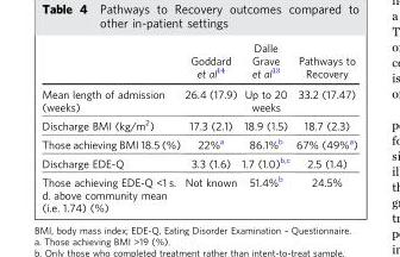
<table><thead><tr><td></td><td>Goddard et al<sup>14</sup></td><td>Dalle Grave et al<sup>13</sup></td><td>Pathways to Recovery</td></tr></thead><tbody><tr><td>Mean length of admission (weeks)</td><td>26.4 (17.9)</td><td>Up to 20 weeks</td><td>33.2 (17.47)</td></tr><tr><td>Discharge BMI (kg/m<sup>2</sup>)</td><td>17.3 (2.1)</td><td>18.9 (1.5)</td><td>18.7 (2.3)</td></tr><tr><td>Those achieving BMI 18.5 (%)</td><td>22%<sup>a</sup></td><td>86.1%<sup>b</sup></td><td>67% (49%<sup>a</sup>)</td></tr><tr><td>Discharge EDE-Q</td><td>3.3 (1.6)</td><td>1.7 (1.0)<sup>b,c</sup></td><td>2.5 (1.4)</td></tr><tr><td>Those achieving EDE-Q &lt;1 s. d. above community mean (i.e. 1.74) (%)</td><td>Not known</td><td>51.4%<sup>b</sup></td><td>24.5%</td></tr></tbody></table>